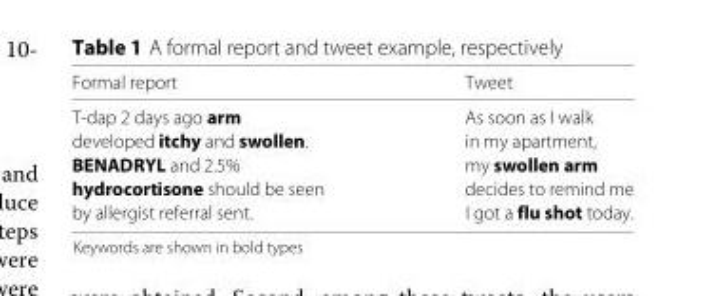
<table><thead><tr><td>Formal report</td><td>Tweet</td></tr></thead><tbody><tr><td>T-dap 2 days ago arm</td><td>As soon as I walk</td></tr><tr><td>developed itchy and swollen.</td><td>in my apartment,</td></tr><tr><td>BENADRYL and 2.5%</td><td>my swollen arm</td></tr><tr><td>hydrocortisone should be seen</td><td>decides to remind me</td></tr><tr><td>by allergist referral sent.</td><td>I got a flu shot today.</td></tr></tbody></table>